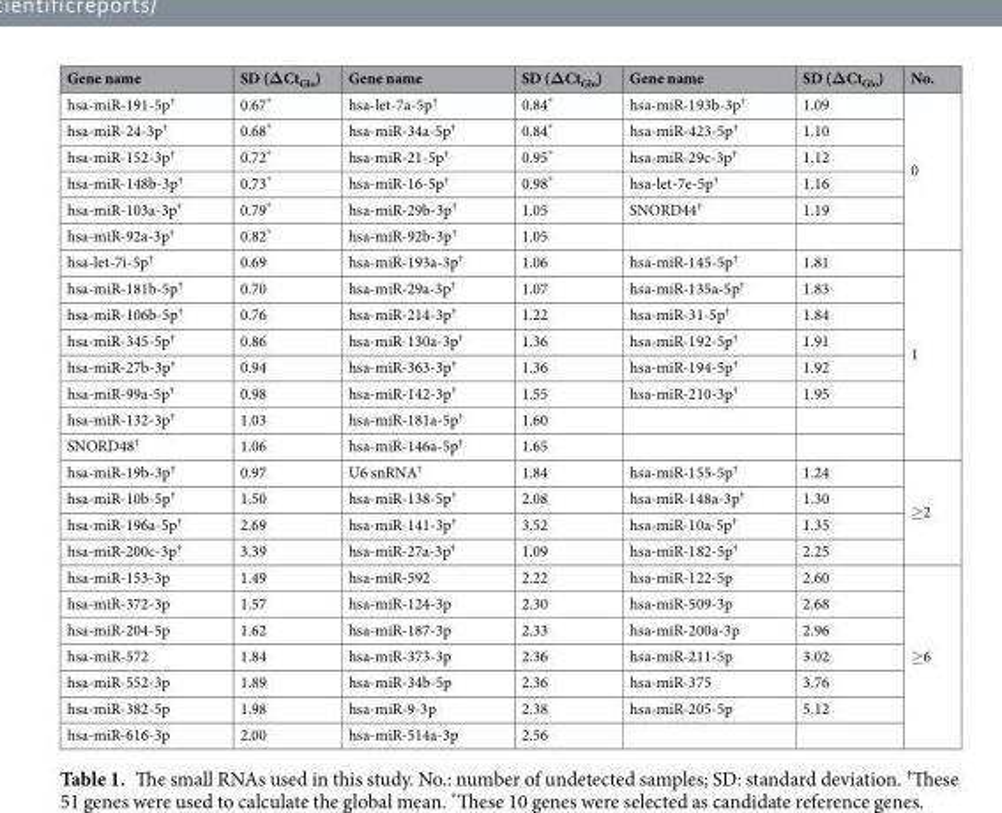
<table><thead><tr><td>Gene name</td><td>SD (ΔCt<sub>Glo</sub>)</td><td>Gene name</td><td>SD (ΔCt<sub>Glo</sub>)</td><td>Gene name</td><td>SD (ΔCt<sub>Glo</sub>)</td><td>No.</td></tr></thead><tbody><tr><td>hsa-miR-191-5p<sup>†</sup></td><td>0.67*</td><td>hsa-let-7a-5p<sup>†</sup></td><td>0.84*</td><td>hsa-miR-193b-3p<sup>†</sup></td><td>1.09</td><td rowspan="6">0</td></tr><tr><td>hsa-miR-24-3p<sup>†</sup></td><td>0.68*</td><td>hsa-miR-34a-5p<sup>†</sup></td><td>0.84*</td><td>hsa-miR-423-5p<sup>†</sup></td><td>1.10</td></tr><tr><td>hsa-miR-152-3p<sup>†</sup></td><td>0.72*</td><td>hsa-miR-21-5p<sup>†</sup></td><td>0.95*</td><td>hsa-miR-29c-3p<sup>†</sup></td><td>1.12</td></tr><tr><td>hsa-miR-148b-3p<sup>†</sup></td><td>0.73*</td><td>hsa-miR-16-5p<sup>†</sup></td><td>0.98*</td><td>hsa-let-7e-5p<sup>†</sup></td><td>1.16</td></tr><tr><td>hsa-miR-103a-3p<sup>†</sup></td><td>0.79*</td><td>hsa-miR-29b-3p<sup>†</sup></td><td>1.05</td><td>SNORD44<sup>†</sup></td><td>1.19</td></tr><tr><td>hsa-miR-92a-3p<sup>†</sup></td><td>0.82*</td><td>hsa-miR-92b-3p<sup>†</sup></td><td>1.05</td><td></td><td></td></tr><tr><td>hsa-let-7i-5p<sup>†</sup></td><td>0.69</td><td>hsa-miR-193a-3p<sup>†</sup></td><td>1.06</td><td>hsa-miR-145-5p<sup>†</sup></td><td>1.81</td><td rowspan="8">1</td></tr><tr><td>hsa-miR-181b-5p<sup>†</sup></td><td>0.70</td><td>hsa-miR-29a-3p<sup>†</sup></td><td>1.07</td><td>hsa-miR-135a-5p<sup>†</sup></td><td>1.83</td></tr><tr><td>hsa-miR-106b-5p<sup>†</sup></td><td>0.76</td><td>hsa-miR-214-3p<sup>†</sup></td><td>1.22</td><td>hsa-miR-31-5p<sup>†</sup></td><td>1.84</td></tr><tr><td>hsa-miR-345-5p<sup>†</sup></td><td>0.86</td><td>hsa-miR-130a-3p<sup>†</sup></td><td>1.36</td><td>hsa-miR-192-5p<sup>†</sup></td><td>1.91</td></tr><tr><td>hsa-miR-27b-3p<sup>†</sup></td><td>0.94</td><td>hsa-miR-363-3p<sup>†</sup></td><td>1.36</td><td>hsa-miR-194-5p<sup>†</sup></td><td>1.92</td></tr><tr><td>hsa-miR-99a-5p<sup>†</sup></td><td>0.98</td><td>hsa-miR-142-3p<sup>†</sup></td><td>1.55</td><td>hsa-miR-210-3p<sup>†</sup></td><td>1.95</td></tr><tr><td>hsa-miR-132-3p<sup>†</sup></td><td>1.03</td><td>hsa-miR-181a-5p<sup>†</sup></td><td>1.60</td><td></td><td></td></tr><tr><td>SNORD48<sup>†</sup></td><td>1.06</td><td>hsa-miR-146a-5p<sup>†</sup></td><td>1.65</td><td></td><td></td></tr><tr><td>hsa-miR-19b-3p<sup>†</sup></td><td>0.97</td><td>U6 snRNA<sup>†</sup></td><td>1.84</td><td>hsa-miR-155-5p<sup>†</sup></td><td>1.24</td><td rowspan="4">≥2</td></tr><tr><td>hsa-miR-10b-5p<sup>†</sup></td><td>1.50</td><td>hsa-miR-138-5p<sup>†</sup></td><td>2.08</td><td>hsa-miR-148a-3p<sup>†</sup></td><td>1.30</td></tr><tr><td>hsa-miR-196a-5p<sup>†</sup></td><td>2.69</td><td>hsa-miR-141-3p<sup>†</sup></td><td>3.52</td><td>hsa-miR-10a-5p<sup>†</sup></td><td>1.35</td></tr><tr><td>hsa-miR-200c-3p<sup>†</sup></td><td>3.39</td><td>hsa-miR-27a-3p<sup>†</sup></td><td>1.09</td><td>hsa-miR-182-5p<sup>†</sup></td><td>2.25</td></tr><tr><td>hsa-miR-153-3p</td><td>1.49</td><td>hsa-miR-592</td><td>2.22</td><td>hsa-miR-122-5p</td><td>2.60</td><td rowspan="7">≥6</td></tr><tr><td>hsa-miR-372-3p</td><td>1.57</td><td>hsa-miR-124-3p</td><td>2.30</td><td>hsa-miR-509-3p</td><td>2.68</td></tr><tr><td>hsa-miR-204-5p</td><td>1.62</td><td>hsa-miR-187-3p</td><td>2.33</td><td>hsa-miR-200a-3p</td><td>2.96</td></tr><tr><td>hsa-miR-572</td><td>1.84</td><td>hsa-miR-373-3p</td><td>2.36</td><td>hsa-miR-211-5p</td><td>3.02</td></tr><tr><td>hsa-miR-552-3p</td><td>1.89</td><td>hsa-miR-34b-5p</td><td>2.36</td><td>hsa-miR-375</td><td>3.76</td></tr><tr><td>hsa-miR-382-5p</td><td>1.98</td><td>hsa-miR-9-3p</td><td>2.38</td><td>hsa-miR-205-5p</td><td>5.12</td></tr><tr><td>hsa-miR-616-3p</td><td>2.00</td><td>hsa-miR-514a-3p</td><td>2.56</td><td></td><td></td></tr></tbody></table>